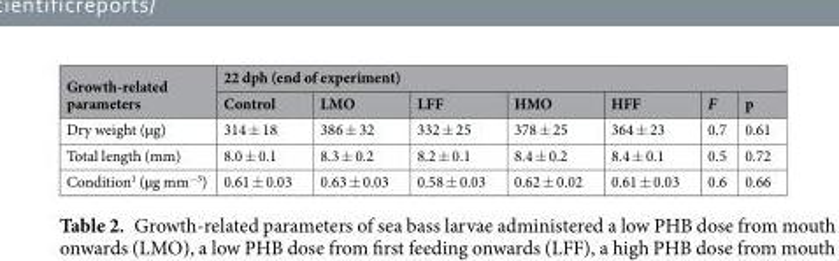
<table><thead><tr><td rowspan="2">Growth-related parameters</td><td colspan="7">22 dph (end of experiment)</td></tr><tr><td>Control</td><td>LMO</td><td>LFF</td><td>HMO</td><td>HFF</td><td>F</td><td>p</td></tr></thead><tbody><tr><td>Dry weight (µg)</td><td>314 ± 18</td><td>386 ± 32</td><td>332 ± 25</td><td>378 ± 25</td><td>364 ± 23</td><td>0.7</td><td>0.61</td></tr><tr><td>Total length (mm)</td><td>8.0 ± 0.1</td><td>8.3 ± 0.2</td><td>8.2 ± 0.1</td><td>8.4 ± 0.2</td><td>8.4 ± 0.1</td><td>0.5</td><td>0.72</td></tr><tr><td>Condition<sup>1</sup> (µg mm<sup>−3</sup>)</td><td>0.61 ± 0.03</td><td>0.63 ± 0.03</td><td>0.58 ± 0.03</td><td>0.62 ± 0.02</td><td>0.61 ± 0.03</td><td>0.6</td><td>0.66</td></tr></tbody></table>